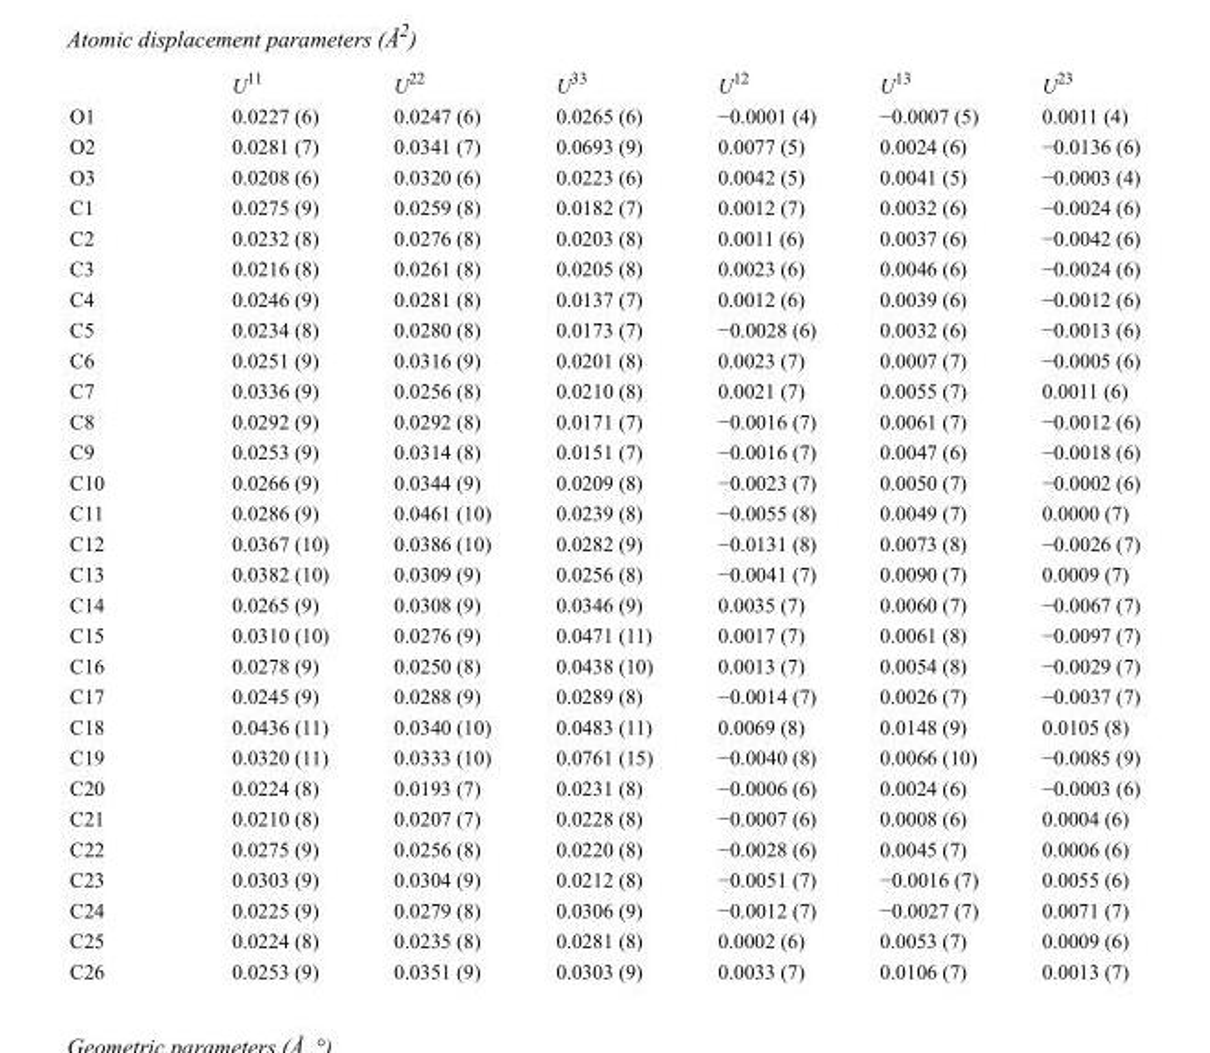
<table><thead><tr><td></td><td>U<sup>11</sup></td><td>U<sup>22</sup></td><td>U<sup>33</sup></td><td>U<sup>12</sup></td><td>U<sup>13</sup></td><td>U<sup>23</sup></td></tr></thead><tbody><tr><td>O1</td><td>0.0227 (6)</td><td>0.0247 (6)</td><td>0.0265 (6)</td><td>−0.0001 (4)</td><td>−0.0007 (5)</td><td>0.0011 (4)</td></tr><tr><td>O2</td><td>0.0281 (7)</td><td>0.0341 (7)</td><td>0.0693 (9)</td><td>0.0077 (5)</td><td>0.0024 (6)</td><td>−0.0136 (6)</td></tr><tr><td>O3</td><td>0.0208 (6)</td><td>0.0320 (6)</td><td>0.0223 (6)</td><td>0.0042 (5)</td><td>0.0041 (5)</td><td>−0.0003 (4)</td></tr><tr><td>C1</td><td>0.0275 (9)</td><td>0.0259 (8)</td><td>0.0182 (7)</td><td>0.0012 (7)</td><td>0.0032 (6)</td><td>−0.0024 (6)</td></tr><tr><td>C2</td><td>0.0232 (8)</td><td>0.0276 (8)</td><td>0.0203 (8)</td><td>0.0011 (6)</td><td>0.0037 (6)</td><td>−0.0042 (6)</td></tr><tr><td>C3</td><td>0.0216 (8)</td><td>0.0261 (8)</td><td>0.0205 (8)</td><td>0.0023 (6)</td><td>0.0046 (6)</td><td>−0.0024 (6)</td></tr><tr><td>C4</td><td>0.0246 (9)</td><td>0.0281 (8)</td><td>0.0137 (7)</td><td>0.0012 (6)</td><td>0.0039 (6)</td><td>−0.0012 (6)</td></tr><tr><td>C5</td><td>0.0234 (8)</td><td>0.0280 (8)</td><td>0.0173 (7)</td><td>−0.0028 (6)</td><td>0.0032 (6)</td><td>−0.0013 (6)</td></tr><tr><td>C6</td><td>0.0251 (9)</td><td>0.0316 (9)</td><td>0.0201 (8)</td><td>0.0023 (7)</td><td>0.0007 (7)</td><td>−0.0005 (6)</td></tr><tr><td>C7</td><td>0.0336 (9)</td><td>0.0256 (8)</td><td>0.0210 (8)</td><td>0.0021 (7)</td><td>0.0055 (7)</td><td>0.0011 (6)</td></tr><tr><td>C8</td><td>0.0292 (9)</td><td>0.0292 (8)</td><td>0.0171 (7)</td><td>−0.0016 (7)</td><td>0.0061 (7)</td><td>−0.0012 (6)</td></tr><tr><td>C9</td><td>0.0253 (9)</td><td>0.0314 (8)</td><td>0.0151 (7)</td><td>−0.0016 (7)</td><td>0.0047 (6)</td><td>−0.0018 (6)</td></tr><tr><td>C10</td><td>0.0266 (9)</td><td>0.0344 (9)</td><td>0.0209 (8)</td><td>−0.0023 (7)</td><td>0.0050 (7)</td><td>−0.0002 (6)</td></tr><tr><td>C11</td><td>0.0286 (9)</td><td>0.0461 (10)</td><td>0.0239 (8)</td><td>−0.0055 (8)</td><td>0.0049 (7)</td><td>0.0000 (7)</td></tr><tr><td>C12</td><td>0.0367 (10)</td><td>0.0386 (10)</td><td>0.0282 (9)</td><td>−0.0131 (8)</td><td>0.0073 (8)</td><td>−0.0026 (7)</td></tr><tr><td>C13</td><td>0.0382 (10)</td><td>0.0309 (9)</td><td>0.0256 (8)</td><td>−0.0041 (7)</td><td>0.0090 (7)</td><td>0.0009 (7)</td></tr><tr><td>C14</td><td>0.0265 (9)</td><td>0.0308 (9)</td><td>0.0346 (9)</td><td>0.0035 (7)</td><td>0.0060 (7)</td><td>−0.0067 (7)</td></tr><tr><td>C15</td><td>0.0310 (10)</td><td>0.0276 (9)</td><td>0.0471 (11)</td><td>0.0017 (7)</td><td>0.0061 (8)</td><td>−0.0097 (7)</td></tr><tr><td>C16</td><td>0.0278 (9)</td><td>0.0250 (8)</td><td>0.0438 (10)</td><td>0.0013 (7)</td><td>0.0054 (8)</td><td>−0.0029 (7)</td></tr><tr><td>C17</td><td>0.0245 (9)</td><td>0.0288 (9)</td><td>0.0289 (8)</td><td>−0.0014 (7)</td><td>0.0026 (7)</td><td>−0.0037 (7)</td></tr><tr><td>C18</td><td>0.0436 (11)</td><td>0.0340 (10)</td><td>0.0483 (11)</td><td>0.0069 (8)</td><td>0.0148 (9)</td><td>0.0105 (8)</td></tr><tr><td>C19</td><td>0.0320 (11)</td><td>0.0333 (10)</td><td>0.0761 (15)</td><td>−0.0040 (8)</td><td>0.0066 (10)</td><td>−0.0085 (9)</td></tr><tr><td>C20</td><td>0.0224 (8)</td><td>0.0193 (7)</td><td>0.0231 (8)</td><td>−0.0006 (6)</td><td>0.0024 (6)</td><td>−0.0003 (6)</td></tr><tr><td>C21</td><td>0.0210 (8)</td><td>0.0207 (7)</td><td>0.0228 (8)</td><td>−0.0007 (6)</td><td>0.0008 (6)</td><td>0.0004 (6)</td></tr><tr><td>C22</td><td>0.0275 (9)</td><td>0.0256 (8)</td><td>0.0220 (8)</td><td>−0.0028 (6)</td><td>0.0045 (7)</td><td>0.0006 (6)</td></tr><tr><td>C23</td><td>0.0303 (9)</td><td>0.0304 (9)</td><td>0.0212 (8)</td><td>−0.0051 (7)</td><td>−0.0016 (7)</td><td>0.0055 (6)</td></tr><tr><td>C24</td><td>0.0225 (9)</td><td>0.0279 (8)</td><td>0.0306 (9)</td><td>−0.0012 (7)</td><td>−0.0027 (7)</td><td>0.0071 (7)</td></tr><tr><td>C25</td><td>0.0224 (8)</td><td>0.0235 (8)</td><td>0.0281 (8)</td><td>0.0002 (6)</td><td>0.0053 (7)</td><td>0.0009 (6)</td></tr><tr><td>C26</td><td>0.0253 (9)</td><td>0.0351 (9)</td><td>0.0303 (9)</td><td>0.0033 (7)</td><td>0.0106 (7)</td><td>0.0013 (7)</td></tr></tbody></table>